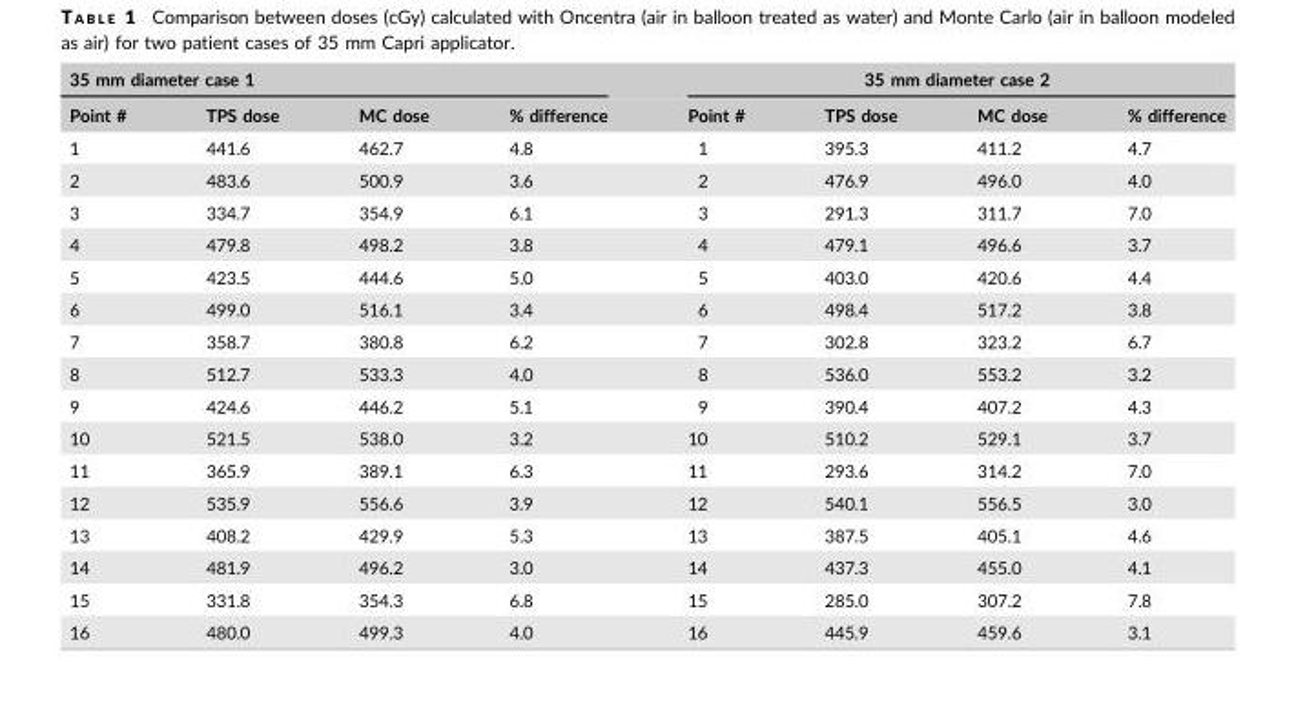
<table><thead><tr><td colspan="4">35 mm diameter case 1</td><td colspan="4">35 mm diameter case 2</td></tr><tr><td>Point #</td><td>TPS dose</td><td>MC dose</td><td>% difference</td><td>Point #</td><td>TPS dose</td><td>MC dose</td><td>% difference</td></tr></thead><tbody><tr><td>1</td><td>441.6</td><td>462.7</td><td>4.8</td><td>1</td><td>395.3</td><td>411.2</td><td>4.7</td></tr><tr><td>2</td><td>483.6</td><td>500.9</td><td>3.6</td><td>2</td><td>476.9</td><td>496.0</td><td>4.0</td></tr><tr><td>3</td><td>334.7</td><td>354.9</td><td>6.1</td><td>3</td><td>291.3</td><td>311.7</td><td>7.0</td></tr><tr><td>4</td><td>479.8</td><td>498.2</td><td>3.8</td><td>4</td><td>479.1</td><td>496.6</td><td>3.7</td></tr><tr><td>5</td><td>423.5</td><td>444.6</td><td>5.0</td><td>5</td><td>403.0</td><td>420.6</td><td>4.4</td></tr><tr><td>6</td><td>499.0</td><td>516.1</td><td>3.4</td><td>6</td><td>498.4</td><td>517.2</td><td>3.8</td></tr><tr><td>7</td><td>358.7</td><td>380.8</td><td>6.2</td><td>7</td><td>302.8</td><td>323.2</td><td>6.7</td></tr><tr><td>8</td><td>512.7</td><td>533.3</td><td>4.0</td><td>8</td><td>536.0</td><td>553.2</td><td>3.2</td></tr><tr><td>9</td><td>424.6</td><td>446.2</td><td>5.1</td><td>9</td><td>390.4</td><td>407.2</td><td>4.3</td></tr><tr><td>10</td><td>521.5</td><td>538.0</td><td>3.2</td><td>10</td><td>510.2</td><td>529.1</td><td>3.7</td></tr><tr><td>11</td><td>365.9</td><td>389.1</td><td>6.3</td><td>11</td><td>293.6</td><td>314.2</td><td>7.0</td></tr><tr><td>12</td><td>535.9</td><td>556.6</td><td>3.9</td><td>12</td><td>540.1</td><td>556.5</td><td>3.0</td></tr><tr><td>13</td><td>408.2</td><td>429.9</td><td>5.3</td><td>13</td><td>387.5</td><td>405.1</td><td>4.6</td></tr><tr><td>14</td><td>481.9</td><td>496.2</td><td>3.0</td><td>14</td><td>437.3</td><td>455.0</td><td>4.1</td></tr><tr><td>15</td><td>331.8</td><td>354.3</td><td>6.8</td><td>15</td><td>285.0</td><td>307.2</td><td>7.8</td></tr><tr><td>16</td><td>480.0</td><td>499.3</td><td>4.0</td><td>16</td><td>445.9</td><td>459.6</td><td>3.1</td></tr></tbody></table>